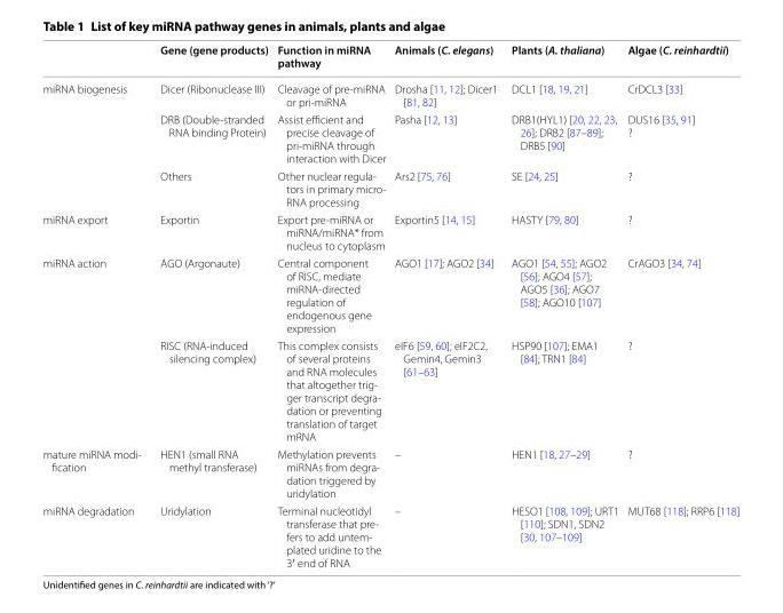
<table><thead><tr><td></td><td>Gene (gene products)</td><td>Function in miRNA pathway</td><td>Animals (C. elegans)</td><td>Plants (A. thaliana)</td><td>Algae (C. reinhardtii)</td></tr></thead><tbody><tr><td rowspan="3">miRNA biogenesis</td><td>Dicer (Ribonuclease III)</td><td>Cleavage of pre-miRNA or pri-miRNA</td><td>Drosha [11, 12]; Dicer1 [81, 82]</td><td>DCL1 [18, 19, 21]</td><td>CrDCL3 [33]</td></tr><tr><td>DRB (Double-stranded RNA binding Protein)</td><td>Assist efficient and precise cleavage of pri-miRNA through interaction with Dicer</td><td>Pasha [12, 13]</td><td>DRB1(HYL1) [20, 22, 23, 26]; DRB2 [87–89]; DRB5 [90]</td><td>DUS16 [35, 91] ?</td></tr><tr><td>Others</td><td>Other nuclear regula- tors in primary micro- RNA processing</td><td>Ars2 [75, 76]</td><td>SE [24, 25]</td><td>?</td></tr><tr><td>miRNA export</td><td>Exportin</td><td>Export pre-miRNA or miRNA/miRNA* from nucleus to cytoplasm</td><td>Exportin5 [14, 15]</td><td>HASTY [79, 80]</td><td>?</td></tr><tr><td rowspan="2">miRNA action</td><td>AGO (Argonaute)</td><td>Central component of RISC, mediate miRNA-directed regulation of endogenous gene expression</td><td>AGO1 [17]; AGO2 [34]</td><td>AGO1 [54, 55]; AGO2 [56]; AGO4 [57]; AGO5 [36]; AGO7 [58]; AGO10 [107]</td><td>CrAGO3 [34, 74]</td></tr><tr><td>RISC (RNA-induced silencing complex)</td><td>This complex consists of several proteins and RNA molecules that altogether trig- ger transcript degra- dation or preventing translation of target mRNA</td><td>eIF6 [59, 60]; eIF2C2, Gemin4, Gemin3 [61–63]</td><td>HSP90 [107]; EMA1 [84]; TRN1 [84]</td><td>?</td></tr><tr><td>mature miRNA modi- fication</td><td>HEN1 (small RNA methyl transferase)</td><td>Methylation prevents miRNAs from degra- dation triggered by uridylation</td><td>–</td><td>HEN1 [18, 27–29]</td><td>?</td></tr><tr><td>miRNA degradation</td><td>Uridylation</td><td>Terminal nucleotidyl transferase that pre- fers to add untem- plated uridine to the 3′ end of RNA</td><td>–</td><td>HESO1 [108, 109]; URT1 [110]; SDN1, SDN2 [30, 107–109]</td><td>MUT68 [118]; RRP6 [118]</td></tr></tbody></table>